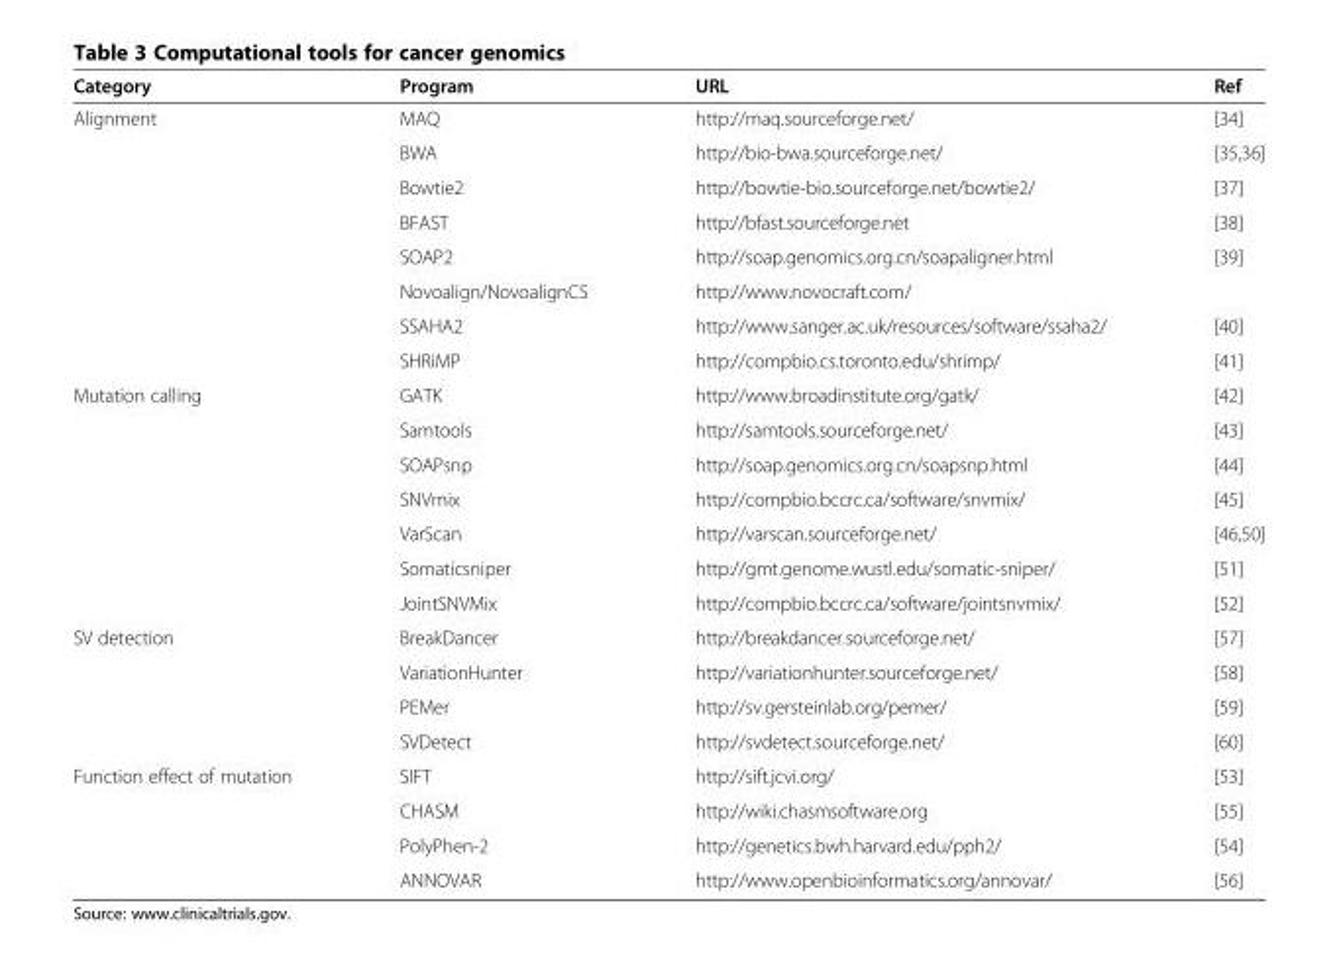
<table><thead><tr><td>Category</td><td>Program</td><td>URL</td><td>Ref</td></tr></thead><tbody><tr><td rowspan="8">Alignment</td><td>MAQ</td><td>http://maq.sourceforge.net/</td><td>[34]</td></tr><tr><td>BWA</td><td>http://bio-bwa.sourceforge.net/</td><td>[35,36]</td></tr><tr><td>Bowtie2</td><td>http://bowtie-bio.sourceforge.net/bowtie2/</td><td>[37]</td></tr><tr><td>BFAST</td><td>http://bfast.sourceforge.net</td><td>[38]</td></tr><tr><td>SOAP2</td><td>http://soap.genomics.org.cn/soapaligner.html</td><td>[39]</td></tr><tr><td>Novoalign/NovoalignCS</td><td>http://www.novocraft.com/</td><td></td></tr><tr><td>SSAHA2</td><td>http://www.sanger.ac.uk/resources/software/ssaha2/</td><td>[40]</td></tr><tr><td>SHRiMP</td><td>http://compbio.cs.toronto.edu/shrimp/</td><td>[41]</td></tr><tr><td rowspan="7">Mutation calling</td><td>GATK</td><td>http://www.broadinstitute.org/gatk/</td><td>[42]</td></tr><tr><td>Samtools</td><td>http://samtools.sourceforge.net/</td><td>[43]</td></tr><tr><td>SOAPsnp</td><td>http://soap.genomics.org.cn/soapsnp.html</td><td>[44]</td></tr><tr><td>SNVmix</td><td>http://compbio.bccrc.ca/software/snvmix/</td><td>[45]</td></tr><tr><td>VarScan</td><td>http://varscan.sourceforge.net/</td><td>[46,50]</td></tr><tr><td>Somaticsniper</td><td>http://gmt.genome.wustl.edu/somatic-sniper/</td><td>[51]</td></tr><tr><td>JointSNVMix</td><td>http://compbio.bccrc.ca/software/jointsnvmix/</td><td>[52]</td></tr><tr><td rowspan="4">SV detection</td><td>BreakDancer</td><td>http://breakdancer.sourceforge.net/</td><td>[57]</td></tr><tr><td>VariationHunter</td><td>http://variationhunter.sourceforge.net/</td><td>[58]</td></tr><tr><td>PEMer</td><td>http://sv.gersteinlab.org/pemer/</td><td>[59]</td></tr><tr><td>SVDetect</td><td>http://svdetect.sourceforge.net/</td><td>[60]</td></tr><tr><td rowspan="4">Function effect of mutation</td><td>SIFT</td><td>http://sift.jcvi.org/</td><td>[53]</td></tr><tr><td>CHASM</td><td>http://wiki.chasmsoftware.org</td><td>[55]</td></tr><tr><td>PolyPhen-2</td><td>http://genetics.bwh.harvard.edu/pph2/</td><td>[54]</td></tr><tr><td>ANNOVAR</td><td>http://www.openbioinformatics.org/annovar/</td><td>[56]</td></tr></tbody></table>